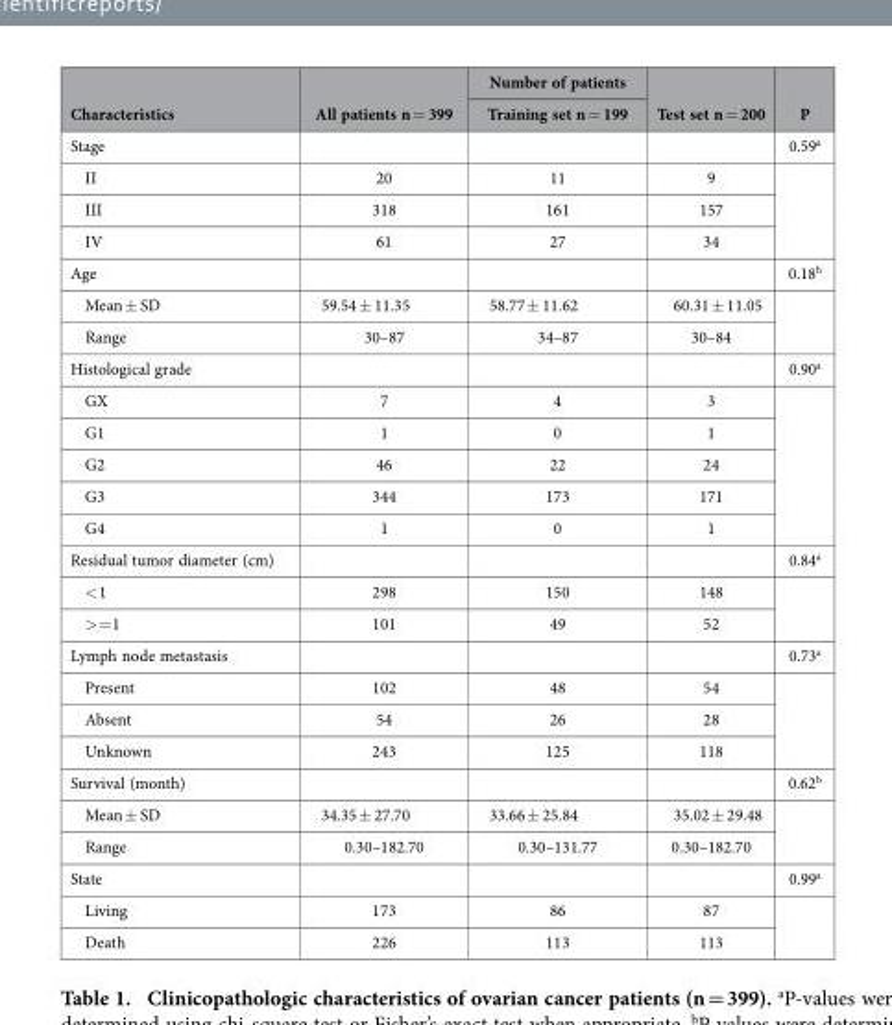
<table><thead><tr><td rowspan="2">Characteristics</td><td rowspan="2">All patients n = 399</td><td rowspan="2">Number of patients Training set n = 199</td><td rowspan="2">Test set n = 200</td><td rowspan="2">P</td></tr><tr></tr></thead><tbody><tr><td>Stage</td><td></td><td></td><td></td><td>0.59<sup>a</sup></td></tr><tr><td>II</td><td>20</td><td>11</td><td>9</td><td rowspan="3"></td></tr><tr><td>III</td><td>318</td><td>161</td><td>157</td></tr><tr><td>IV</td><td>61</td><td>27</td><td>34</td></tr><tr><td>Age</td><td></td><td></td><td></td><td>0.18<sup>b</sup></td></tr><tr><td>Mean ± SD</td><td>59.54 ± 11.35</td><td>58.77 ± 11.62</td><td>60.31 ± 11.05</td><td rowspan="2"></td></tr><tr><td>Range</td><td>30–87</td><td>34–87</td><td>30–84</td></tr><tr><td>Histological grade</td><td></td><td></td><td></td><td>0.90<sup>a</sup></td></tr><tr><td>GX</td><td>7</td><td>4</td><td>3</td><td rowspan="5"></td></tr><tr><td>G1</td><td>1</td><td>0</td><td>1</td></tr><tr><td>G2</td><td>46</td><td>22</td><td>24</td></tr><tr><td>G3</td><td>344</td><td>173</td><td>171</td></tr><tr><td>G4</td><td>1</td><td>0</td><td>1</td></tr><tr><td>Residual tumor diameter (cm)</td><td></td><td></td><td></td><td>0.84<sup>a</sup></td></tr><tr><td>&lt; 1</td><td>298</td><td>150</td><td>148</td><td rowspan="2"></td></tr><tr><td>&gt; = 1</td><td>101</td><td>49</td><td>52</td></tr><tr><td>Lymph node metastasis</td><td></td><td></td><td></td><td>0.73<sup>a</sup></td></tr><tr><td>Present</td><td>102</td><td>48</td><td>54</td><td rowspan="3"></td></tr><tr><td>Absent</td><td>54</td><td>26</td><td>28</td></tr><tr><td>Unknown</td><td>243</td><td>125</td><td>118</td></tr><tr><td>Survival (month)</td><td></td><td></td><td></td><td>0.62<sup>b</sup></td></tr><tr><td>Mean ± SD</td><td>34.35 ± 27.70</td><td>33.66 ± 25.84</td><td>35.02 ± 29.48</td><td rowspan="2"></td></tr><tr><td>Range</td><td>0.30–182.70</td><td>0.30–131.77</td><td>0.30–182.70</td></tr><tr><td>State</td><td></td><td></td><td></td><td>0.99<sup>a</sup></td></tr><tr><td>Living</td><td>173</td><td>86</td><td>87</td><td rowspan="2"></td></tr><tr><td>Death</td><td>226</td><td>113</td><td>113</td></tr></tbody></table>